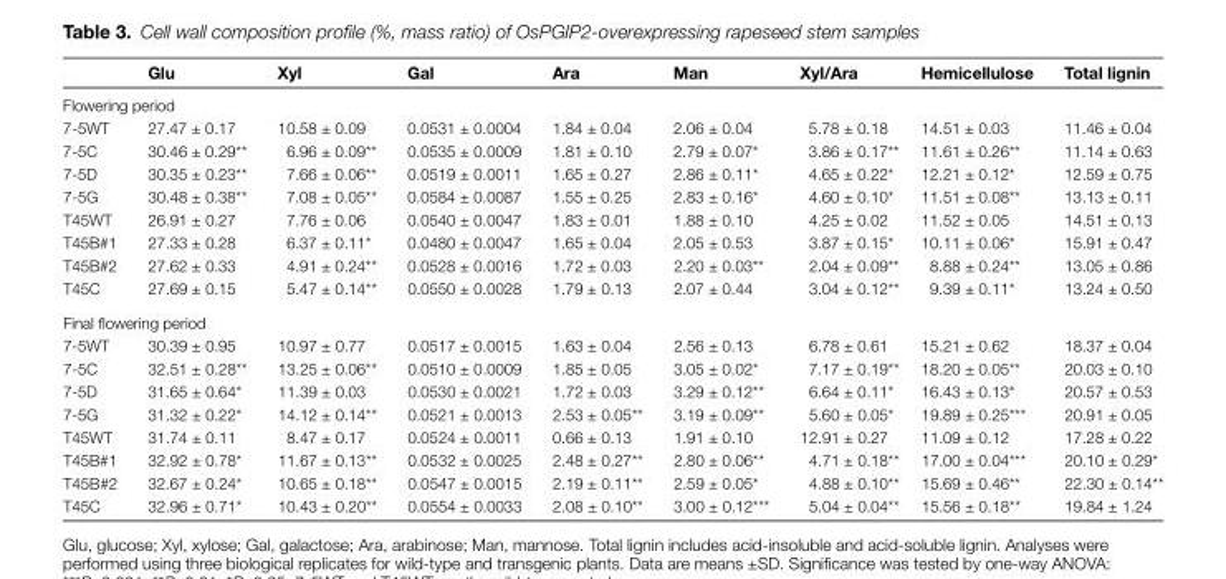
<table><thead><tr><td></td><td>Glu</td><td>Xyl</td><td>Gal</td><td>Ara</td><td>Man</td><td>Xyl/Ara</td><td>Hemicellulose</td><td>Total lignin</td></tr></thead><tbody><tr><td colspan="9">Flowering period</td></tr><tr><td>7-5WT</td><td>27.47 ± 0.17</td><td>10.58 ± 0.09</td><td>0.0531 ± 0.0004</td><td>1.84 ± 0.04</td><td>2.06 ± 0.04</td><td>5.78 ± 0.18</td><td>14.51 ± 0.03</td><td>11.46 ± 0.04</td></tr><tr><td>7-5C</td><td>30.46 ± 0.29**</td><td>6.96 ± 0.09**</td><td>0.0535 ± 0.0009</td><td>1.81 ± 0.10</td><td>2.79 ± 0.07*</td><td>3.86 ± 0.17**</td><td>11.61 ± 0.26**</td><td>11.14 ± 0.63</td></tr><tr><td>7-5D</td><td>30.35 ± 0.23**</td><td>7.66 ± 0.06**</td><td>0.0519 ± 0.0011</td><td>1.65 ± 0.27</td><td>2.86 ± 0.11*</td><td>4.65 ± 0.22*</td><td>12.21 ± 0.12*</td><td>12.59 ± 0.75</td></tr><tr><td>7-5G</td><td>30.48 ± 0.38**</td><td>7.08 ± 0.05**</td><td>0.0584 ± 0.0087</td><td>1.55 ± 0.25</td><td>2.83 ± 0.16*</td><td>4.60 ± 0.10*</td><td>11.51 ± 0.08**</td><td>13.13 ± 0.11</td></tr><tr><td>T45WT</td><td>26.91 ± 0.27</td><td>7.76 ± 0.06</td><td>0.0540 ± 0.0047</td><td>1.83 ± 0.01</td><td>1.88 ± 0.10</td><td>4.25 ± 0.02</td><td>11.52 ± 0.05</td><td>14.51 ± 0.13</td></tr><tr><td>T45B#1</td><td>27.33 ± 0.28</td><td>6.37 ± 0.11*</td><td>0.0480 ± 0.0047</td><td>1.65 ± 0.04</td><td>2.05 ± 0.53</td><td>3.87 ± 0.15*</td><td>10.11 ± 0.06*</td><td>15.91 ± 0.47</td></tr><tr><td>T45B#2</td><td>27.62 ± 0.33</td><td>4.91 ± 0.24**</td><td>0.0528 ± 0.0016</td><td>1.72 ± 0.03</td><td>2.20 ± 0.03**</td><td>2.04 ± 0.09**</td><td>8.88 ± 0.24**</td><td>13.05 ± 0.86</td></tr><tr><td>T45C</td><td>27.69 ± 0.15</td><td>5.47 ± 0.14**</td><td>0.0550 ± 0.0028</td><td>1.79 ± 0.13</td><td>2.07 ± 0.44</td><td>3.04 ± 0.12**</td><td>9.39 ± 0.11*</td><td>13.24 ± 0.50</td></tr><tr><td colspan="9">Final flowering period</td></tr><tr><td>7-5WT</td><td>30.39 ± 0.95</td><td>10.97 ± 0.77</td><td>0.0517 ± 0.0015</td><td>1.63 ± 0.04</td><td>2.56 ± 0.13</td><td>6.78 ± 0.61</td><td>15.21 ± 0.62</td><td>18.37 ± 0.04</td></tr><tr><td>7-5C</td><td>32.51 ± 0.28**</td><td>13.25 ± 0.06**</td><td>0.0510 ± 0.0009</td><td>1.85 ± 0.05</td><td>3.05 ± 0.02*</td><td>7.17 ± 0.19**</td><td>18.20 ± 0.05**</td><td>20.03 ± 0.10</td></tr><tr><td>7-5D</td><td>31.65 ± 0.64*</td><td>11.39 ± 0.03</td><td>0.0530 ± 0.0021</td><td>1.72 ± 0.03</td><td>3.29 ± 0.12**</td><td>6.64 ± 0.11*</td><td>16.43 ± 0.13*</td><td>20.57 ± 0.53</td></tr><tr><td>7-5G</td><td>31.32 ± 0.22*</td><td>14.12 ± 0.14**</td><td>0.0521 ± 0.0013</td><td>2.53 ± 0.05**</td><td>3.19 ± 0.09**</td><td>5.60 ± 0.05*</td><td>19.89 ± 0.25***</td><td>20.91 ± 0.05</td></tr><tr><td>T45WT</td><td>31.74 ± 0.11</td><td>8.47 ± 0.17</td><td>0.0524 ± 0.0011</td><td>0.66 ± 0.13</td><td>1.91 ± 0.10</td><td>12.91 ± 0.27</td><td>11.09 ± 0.12</td><td>17.28 ± 0.22</td></tr><tr><td>T45B#1</td><td>32.92 ± 0.78*</td><td>11.67 ± 0.13**</td><td>0.0532 ± 0.0025</td><td>2.48 ± 0.27**</td><td>2.80 ± 0.06**</td><td>4.71 ± 0.18**</td><td>17.00 ± 0.04***</td><td>20.10 ± 0.29*</td></tr><tr><td>T45B#2</td><td>32.67 ± 0.24*</td><td>10.65 ± 0.18**</td><td>0.0547 ± 0.0015</td><td>2.19 ± 0.11**</td><td>2.59 ± 0.05*</td><td>4.88 ± 0.10**</td><td>15.69 ± 0.46**</td><td>22.30 ± 0.14**</td></tr><tr><td>T45C</td><td>32.96 ± 0.71*</td><td>10.43 ± 0.20**</td><td>0.0554 ± 0.0033</td><td>2.08 ± 0.10**</td><td>3.00 ± 0.12***</td><td>5.04 ± 0.04**</td><td>15.56 ± 0.18**</td><td>19.84 ± 1.24</td></tr></tbody></table>